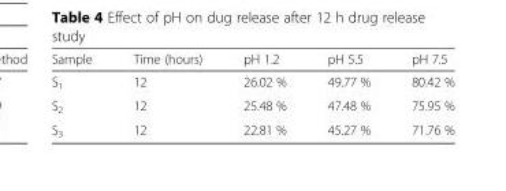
<table><thead><tr><td>Sample</td><td>Time (hours)</td><td>pH 1.2</td><td>pH 5.5</td><td>pH 7.5</td></tr></thead><tbody><tr><td>S<sub>1</sub></td><td>12</td><td>26.02 %</td><td>49.77 %</td><td>80.42 %</td></tr><tr><td>S<sub>2</sub></td><td>12</td><td>25.48 %</td><td>47.48 %</td><td>75.95 %</td></tr><tr><td>S<sub>3</sub></td><td>12</td><td>22.81 %</td><td>45.27 %</td><td>71.76 %</td></tr></tbody></table>